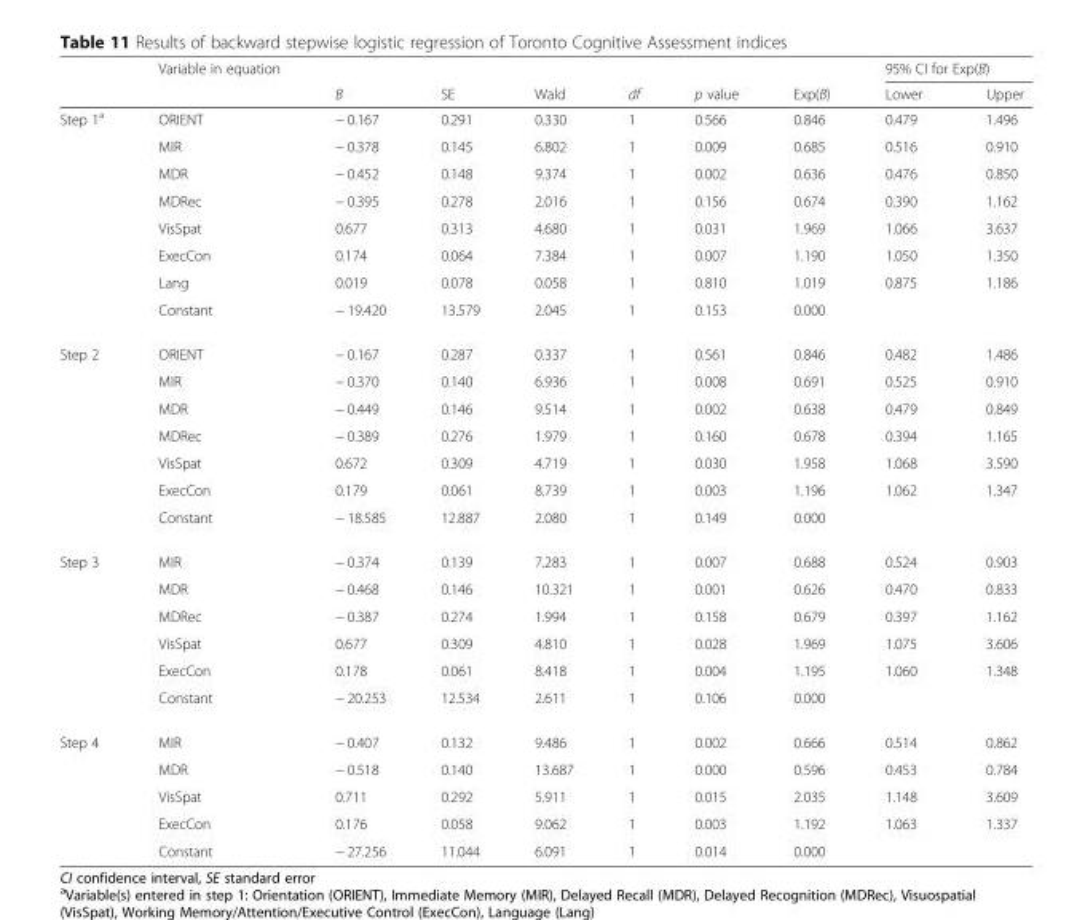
<table><thead><tr><td rowspan="2"></td><td rowspan="2">Variable in equation</td><td rowspan="2">B</td><td rowspan="2">SE</td><td rowspan="2">Wald</td><td rowspan="2">df</td><td rowspan="2">p value</td><td rowspan="2">Exp(B)</td><td colspan="2">95% CI for Exp(B)</td></tr><tr><td>Lower</td><td>Upper</td></tr></thead><tbody><tr><td rowspan="8">Step 1<sup>a</sup></td><td>ORIENT</td><td>− 0.167</td><td>0.291</td><td>0.330</td><td>1</td><td>0.566</td><td>0.846</td><td>0.479</td><td>1.496</td></tr><tr><td>MIR</td><td>− 0.378</td><td>0.145</td><td>6.802</td><td>1</td><td>0.009</td><td>0.685</td><td>0.516</td><td>0.910</td></tr><tr><td>MDR</td><td>− 0.452</td><td>0.148</td><td>9.374</td><td>1</td><td>0.002</td><td>0.636</td><td>0.476</td><td>0.850</td></tr><tr><td>MDRec</td><td>− 0.395</td><td>0.278</td><td>2.016</td><td>1</td><td>0.156</td><td>0.674</td><td>0.390</td><td>1.162</td></tr><tr><td>VisSpat</td><td>0.677</td><td>0.313</td><td>4.680</td><td>1</td><td>0.031</td><td>1.969</td><td>1.066</td><td>3.637</td></tr><tr><td>ExecCon</td><td>0.174</td><td>0.064</td><td>7.384</td><td>1</td><td>0.007</td><td>1.190</td><td>1.050</td><td>1.350</td></tr><tr><td>Lang</td><td>0.019</td><td>0.078</td><td>0.058</td><td>1</td><td>0.810</td><td>1.019</td><td>0.875</td><td>1.186</td></tr><tr><td>Constant</td><td>− 19.420</td><td>13.579</td><td>2.045</td><td>1</td><td>0.153</td><td>0.000</td><td></td><td></td></tr><tr><td rowspan="7">Step 2</td><td>ORIENT</td><td>− 0.167</td><td>0.287</td><td>0.337</td><td>1</td><td>0.561</td><td>0.846</td><td>0.482</td><td>1.486</td></tr><tr><td>MIR</td><td>− 0.370</td><td>0.140</td><td>6.936</td><td>1</td><td>0.008</td><td>0.691</td><td>0.525</td><td>0.910</td></tr><tr><td>MDR</td><td>− 0.449</td><td>0.146</td><td>9.514</td><td>1</td><td>0.002</td><td>0.638</td><td>0.479</td><td>0.849</td></tr><tr><td>MDRec</td><td>− 0.389</td><td>0.276</td><td>1.979</td><td>1</td><td>0.160</td><td>0.678</td><td>0.394</td><td>1.165</td></tr><tr><td>VisSpat</td><td>0.672</td><td>0.309</td><td>4.719</td><td>1</td><td>0.030</td><td>1.958</td><td>1.068</td><td>3.590</td></tr><tr><td>ExecCon</td><td>0.179</td><td>0.061</td><td>8.739</td><td>1</td><td>0.003</td><td>1.196</td><td>1.062</td><td>1.347</td></tr><tr><td>Constant</td><td>− 18.585</td><td>12.887</td><td>2.080</td><td>1</td><td>0.149</td><td>0.000</td><td></td><td></td></tr><tr><td rowspan="6">Step 3</td><td>MIR</td><td>− 0.374</td><td>0.139</td><td>7.283</td><td>1</td><td>0.007</td><td>0.688</td><td>0.524</td><td>0.903</td></tr><tr><td>MDR</td><td>− 0.468</td><td>0.146</td><td>10.321</td><td>1</td><td>0.001</td><td>0.626</td><td>0.470</td><td>0.833</td></tr><tr><td>MDRec</td><td>− 0.387</td><td>0.274</td><td>1.994</td><td>1</td><td>0.158</td><td>0.679</td><td>0.397</td><td>1.162</td></tr><tr><td>VisSpat</td><td>0.677</td><td>0.309</td><td>4.810</td><td>1</td><td>0.028</td><td>1.969</td><td>1.075</td><td>3.606</td></tr><tr><td>ExecCon</td><td>0.178</td><td>0.061</td><td>8.418</td><td>1</td><td>0.004</td><td>1.195</td><td>1.060</td><td>1.348</td></tr><tr><td>Constant</td><td>− 20.253</td><td>12.534</td><td>2.611</td><td>1</td><td>0.106</td><td>0.000</td><td></td><td></td></tr><tr><td rowspan="5">Step 4</td><td>MIR</td><td>− 0.407</td><td>0.132</td><td>9.486</td><td>1</td><td>0.002</td><td>0.666</td><td>0.514</td><td>0.862</td></tr><tr><td>MDR</td><td>− 0.518</td><td>0.140</td><td>13.687</td><td>1</td><td>0.000</td><td>0.596</td><td>0.453</td><td>0.784</td></tr><tr><td>VisSpat</td><td>0.711</td><td>0.292</td><td>5.911</td><td>1</td><td>0.015</td><td>2.035</td><td>1.148</td><td>3.609</td></tr><tr><td>ExecCon</td><td>0.176</td><td>0.058</td><td>9.062</td><td>1</td><td>0.003</td><td>1.192</td><td>1.063</td><td>1.337</td></tr><tr><td>Constant</td><td>− 27.256</td><td>11.044</td><td>6.091</td><td>1</td><td>0.014</td><td>0.000</td><td></td><td></td></tr></tbody></table>